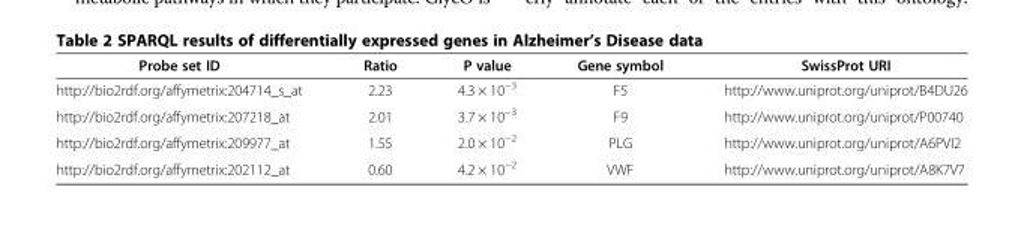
<table><thead><tr><td>Probe set ID</td><td>Ratio</td><td>P value</td><td>Gene symbol</td><td>SwissProt URI</td></tr></thead><tbody><tr><td>http://bio2rdf.org/affymetrix:204714_s_at</td><td>2.23</td><td>4.3 × 10<sup>−3</sup></td><td>F5</td><td>http://www.uniprot.org/uniprot/B4DU26</td></tr><tr><td>http://bio2rdf.org/affymetrix:207218_at</td><td>2.01</td><td>3.7 × 10<sup>−3</sup></td><td>F9</td><td>http://www.uniprot.org/uniprot/P00740</td></tr><tr><td>http://bio2rdf.org/affymetrix:209977_at</td><td>1.55</td><td>2.0 × 10<sup>−2</sup></td><td>PLG</td><td>http://www.uniprot.org/uniprot/A6PVI2</td></tr><tr><td>http://bio2rdf.org/affymetrix:202112_at</td><td>0.60</td><td>4.2 × 10<sup>−2</sup></td><td>VWF</td><td>http://www.uniprot.org/uniprot/A8K7V7</td></tr></tbody></table>